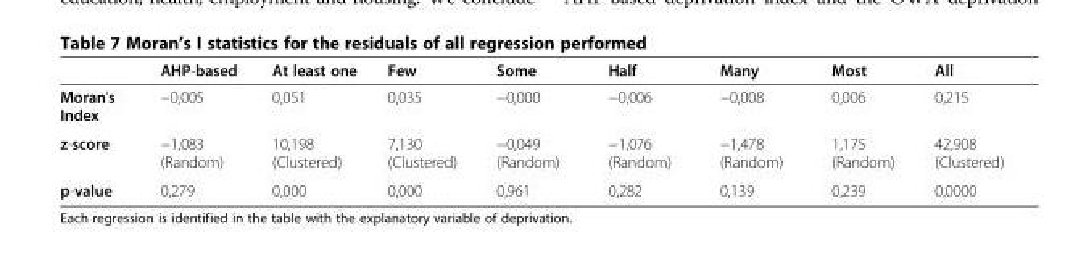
<table><thead><tr><td></td><td>AHP-based</td><td>At least one</td><td>Few</td><td>Some</td><td>Half</td><td>Many</td><td>Most</td><td>All</td></tr></thead><tbody><tr><td>Moran’s Index</td><td>−0,005</td><td>0,051</td><td>0,035</td><td>−0,000</td><td>−0,006</td><td>−0,008</td><td>0,006</td><td>0,215</td></tr><tr><td>z-score</td><td>−1,083 (Random)</td><td>10,198 (Clustered)</td><td>7,130 (Clustered)</td><td>−0,049 (Random)</td><td>−1,076 (Random)</td><td>−1,478 (Random)</td><td>1,175 (Random)</td><td>42,908 (Clustered)</td></tr><tr><td>p-value</td><td>0,279</td><td>0,000</td><td>0,000</td><td>0,961</td><td>0,282</td><td>0,139</td><td>0,239</td><td>0,0000</td></tr></tbody></table>